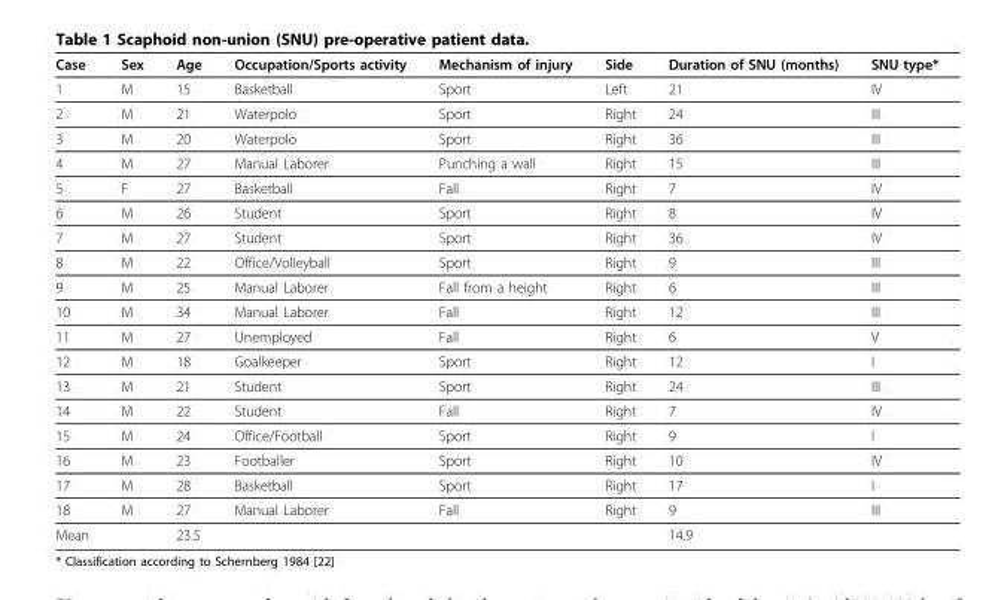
<table><thead><tr><td>Case</td><td>Sex</td><td>Age</td><td>Occupation/Sports activity</td><td>Mechanism of injury</td><td>Side</td><td>Duration of SNU (months)</td><td>SNU type*</td></tr></thead><tbody><tr><td>1</td><td>M</td><td>15</td><td>Basketball</td><td>Sport</td><td>Left</td><td>21</td><td>IV</td></tr><tr><td>2</td><td>M</td><td>21</td><td>Waterpolo</td><td>Sport</td><td>Right</td><td>24</td><td>III</td></tr><tr><td>3</td><td>M</td><td>20</td><td>Waterpolo</td><td>Sport</td><td>Right</td><td>36</td><td>III</td></tr><tr><td>4</td><td>M</td><td>27</td><td>Manual Laborer</td><td>Punching a wall</td><td>Right</td><td>15</td><td>III</td></tr><tr><td>5</td><td>F</td><td>27</td><td>Basketball</td><td>Fall</td><td>Right</td><td>7</td><td>IV</td></tr><tr><td>6</td><td>M</td><td>26</td><td>Student</td><td>Sport</td><td>Right</td><td>8</td><td>IV</td></tr><tr><td>7</td><td>M</td><td>27</td><td>Student</td><td>Sport</td><td>Right</td><td>36</td><td>IV</td></tr><tr><td>8</td><td>M</td><td>22</td><td>Office/Volleyball</td><td>Sport</td><td>Right</td><td>9</td><td>III</td></tr><tr><td>9</td><td>M</td><td>25</td><td>Manual Laborer</td><td>Fall from a height</td><td>Right</td><td>6</td><td>III</td></tr><tr><td>10</td><td>M</td><td>34</td><td>Manual Laborer</td><td>Fall</td><td>Right</td><td>12</td><td>III</td></tr><tr><td>11</td><td>M</td><td>27</td><td>Unemployed</td><td>Fall</td><td>Right</td><td>6</td><td>V</td></tr><tr><td>12</td><td>M</td><td>18</td><td>Goalkeeper</td><td>Sport</td><td>Right</td><td>12</td><td>I</td></tr><tr><td>13</td><td>M</td><td>21</td><td>Student</td><td>Sport</td><td>Right</td><td>24</td><td>III</td></tr><tr><td>14</td><td>M</td><td>22</td><td>Student</td><td>Fall</td><td>Right</td><td>7</td><td>IV</td></tr><tr><td>15</td><td>M</td><td>24</td><td>Office/Football</td><td>Sport</td><td>Right</td><td>9</td><td>I</td></tr><tr><td>16</td><td>M</td><td>23</td><td>Footballer</td><td>Sport</td><td>Right</td><td>10</td><td>IV</td></tr><tr><td>17</td><td>M</td><td>28</td><td>Basketball</td><td>Sport</td><td>Right</td><td>17</td><td>I</td></tr><tr><td>18</td><td>M</td><td>27</td><td>Manual Laborer</td><td>Fall</td><td>Right</td><td>9</td><td>III</td></tr><tr><td>Mean</td><td></td><td>23.5</td><td></td><td></td><td></td><td>14.9</td><td></td></tr></tbody></table>